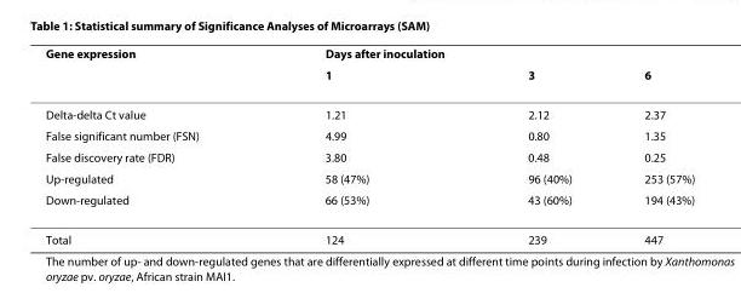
<table><thead><tr><td rowspan="2">Gene expression</td><td colspan="3">Days after inoculation</td></tr><tr><td>1</td><td>3</td><td>6</td></tr></thead><tbody><tr><td>Delta-delta Ct value</td><td>1.21</td><td>2.12</td><td>2.37</td></tr><tr><td>False significant number (FSN)</td><td>4.99</td><td>0.80</td><td>1.35</td></tr><tr><td>False discovery rate (FDR)</td><td>3.80</td><td>0.48</td><td>0.25</td></tr><tr><td>Up-regulated</td><td>58 (47%)</td><td>96 (40%)</td><td>253 (57%)</td></tr><tr><td>Down-regulated</td><td>66 (53%)</td><td>43 (60%)</td><td>194 (43%)</td></tr><tr><td>Total</td><td>124</td><td>239</td><td>447</td></tr></tbody></table>